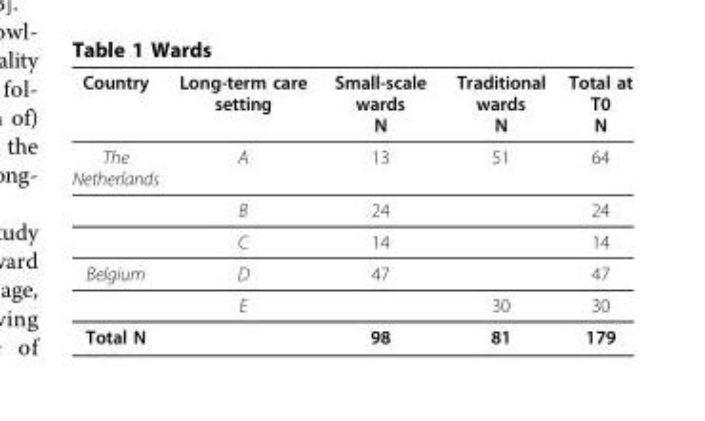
<table><thead><tr><td>Country</td><td>Long-term care setting</td><td>Small-scale wards N</td><td>Traditional wards N</td><td>Total at T0 N</td></tr></thead><tbody><tr><td rowspan="3">The Netherlands</td><td>A</td><td>13</td><td>51</td><td>64</td></tr><tr><td>B</td><td>24</td><td></td><td>24</td></tr><tr><td>C</td><td>14</td><td></td><td>14</td></tr><tr><td rowspan="2">Belgium</td><td>D</td><td>47</td><td></td><td>47</td></tr><tr><td>E</td><td></td><td>30</td><td>30</td></tr><tr><td>Total N</td><td></td><td>98</td><td>81</td><td>179</td></tr></tbody></table>